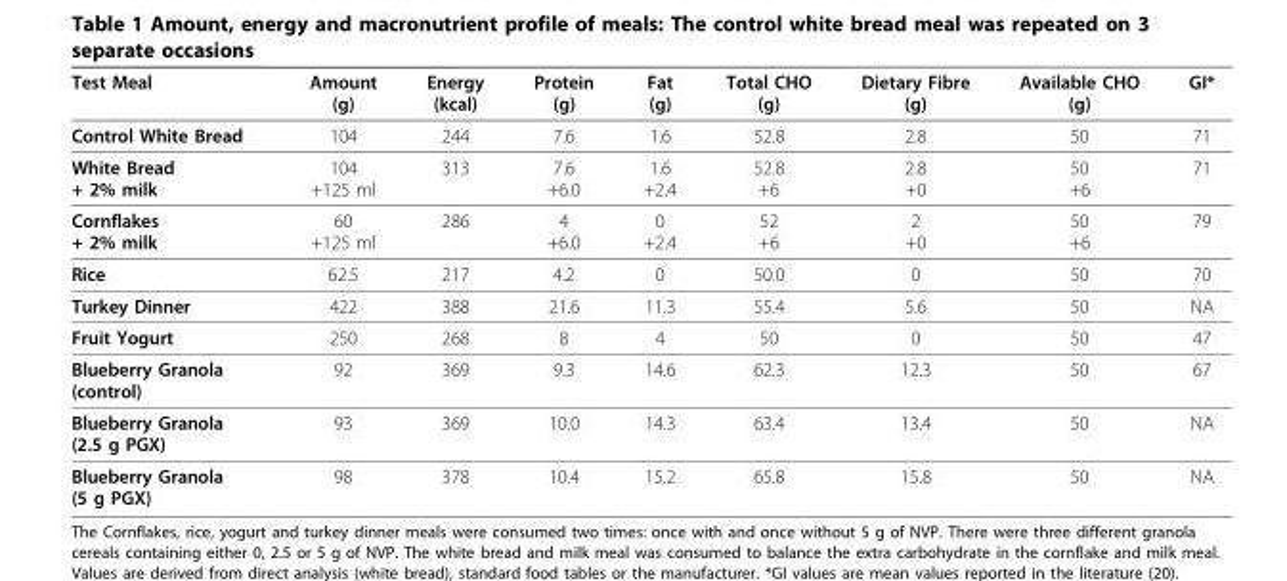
<table><thead><tr><td>Test Meal</td><td>Amount (g)</td><td>Energy (kcal)</td><td>Protein (g)</td><td>Fat (g)</td><td>Total CHO (g)</td><td>Dietary Fibre (g)</td><td>Available CHO (g)</td><td>GI*</td></tr></thead><tbody><tr><td>Control White Bread</td><td>104</td><td>244</td><td>7.6</td><td>1.6</td><td>52.8</td><td>2.8</td><td>50</td><td>71</td></tr><tr><td>White Bread + 2% milk</td><td>104 +125 ml</td><td>313</td><td>7.6 +6.0</td><td>1.6 +2.4</td><td>52.8 +6</td><td>2.8 +0</td><td>50 +6</td><td>71</td></tr><tr><td>Cornflakes + 2% milk</td><td>60 +125 ml</td><td>286</td><td>4 +6.0</td><td>0 +2.4</td><td>52 +6</td><td>2 +0</td><td>50 +6</td><td>79</td></tr><tr><td>Rice</td><td>62.5</td><td>217</td><td>4.2</td><td>0</td><td>50.0</td><td>0</td><td>50</td><td>70</td></tr><tr><td>Turkey Dinner</td><td>422</td><td>388</td><td>21.6</td><td>11.3</td><td>55.4</td><td>5.6</td><td>50</td><td>NA</td></tr><tr><td>Fruit Yogurt</td><td>250</td><td>268</td><td>8</td><td>4</td><td>50</td><td>0</td><td>50</td><td>47</td></tr><tr><td>Blueberry Granola (control)</td><td>92</td><td>369</td><td>9.3</td><td>14.6</td><td>62.3</td><td>12.3</td><td>50</td><td>67</td></tr><tr><td>Blueberry Granola (2.5 g PGX)</td><td>93</td><td>369</td><td>10.0</td><td>14.3</td><td>63.4</td><td>13.4</td><td>50</td><td>NA</td></tr><tr><td>Blueberry Granola (5 g PGX)</td><td>98</td><td>378</td><td>10.4</td><td>15.2</td><td>65.8</td><td>15.8</td><td>50</td><td>NA</td></tr></tbody></table>